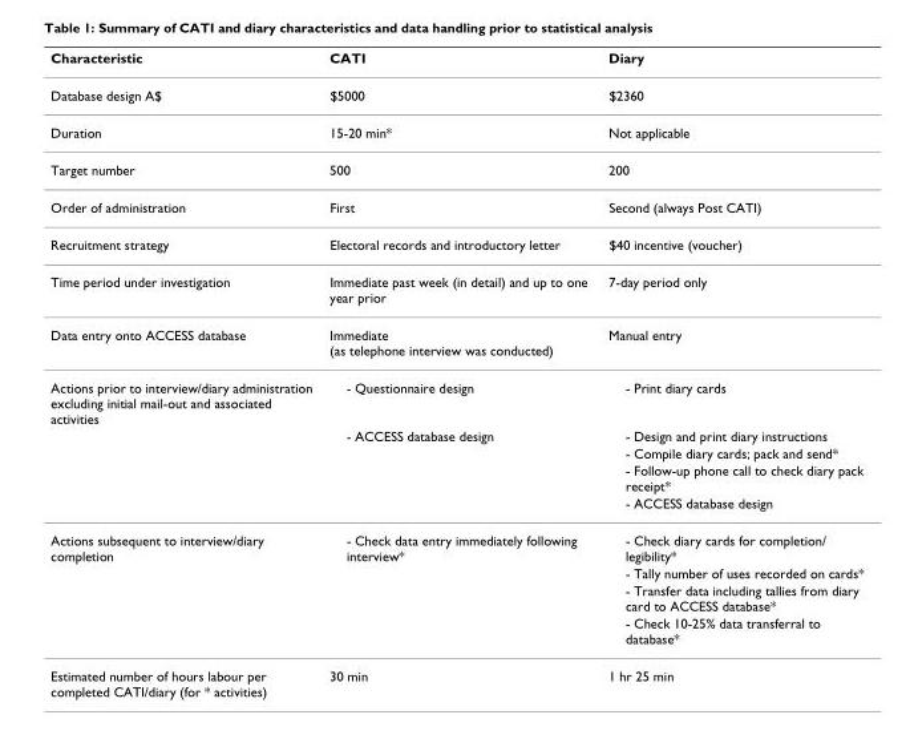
<table><thead><tr><td>Characteristic</td><td>CATI</td><td>Diary</td></tr></thead><tbody><tr><td>Database design A$</td><td>$5000</td><td>$2360</td></tr><tr><td>Duration</td><td>15-20 min*</td><td>Not applicable</td></tr><tr><td>Target number</td><td>500</td><td>200</td></tr><tr><td>Order of administration</td><td>First</td><td>Second (always Post CATI)</td></tr><tr><td>Recruitment strategy</td><td>Electoral records and introductory letter</td><td>$40 incentive (voucher)</td></tr><tr><td>Time period under investigation</td><td>Immediate past week (in detail) and up to one year prior</td><td>7-day period only</td></tr><tr><td>Data entry onto ACCESS database</td><td>Immediate (as telephone interview was conducted)</td><td>Manual entry</td></tr><tr><td rowspan="5">Actions prior to interview/diary administration excluding initial mail-out and associated activities</td><td>- Questionnaire design</td><td>- Print diary cards</td></tr><tr><td>- ACCESS database design</td><td>- Design and print diary instructions</td></tr><tr><td></td><td>- Compile diary cards; pack and send*</td></tr><tr><td></td><td>- Follow-up phone call to check diary pack receipt*</td></tr><tr><td></td><td>- ACCESS database design</td></tr><tr><td rowspan="4">Actions subsequent to interview/diary completion</td><td>- Check data entry immediately following interview*</td><td>- Check diary cards for completion/ legibility*</td></tr><tr><td></td><td>- Tally number of uses recorded on cards*</td></tr><tr><td></td><td>- Transfer data including tallies from diary card to ACCESS database*</td></tr><tr><td></td><td>- Check 10-25% data transferral to database*</td></tr><tr><td>Estimated number of hours labour per completed CATI/diary (for * activities)</td><td>30 min</td><td>1 hr 25 min</td></tr></tbody></table>